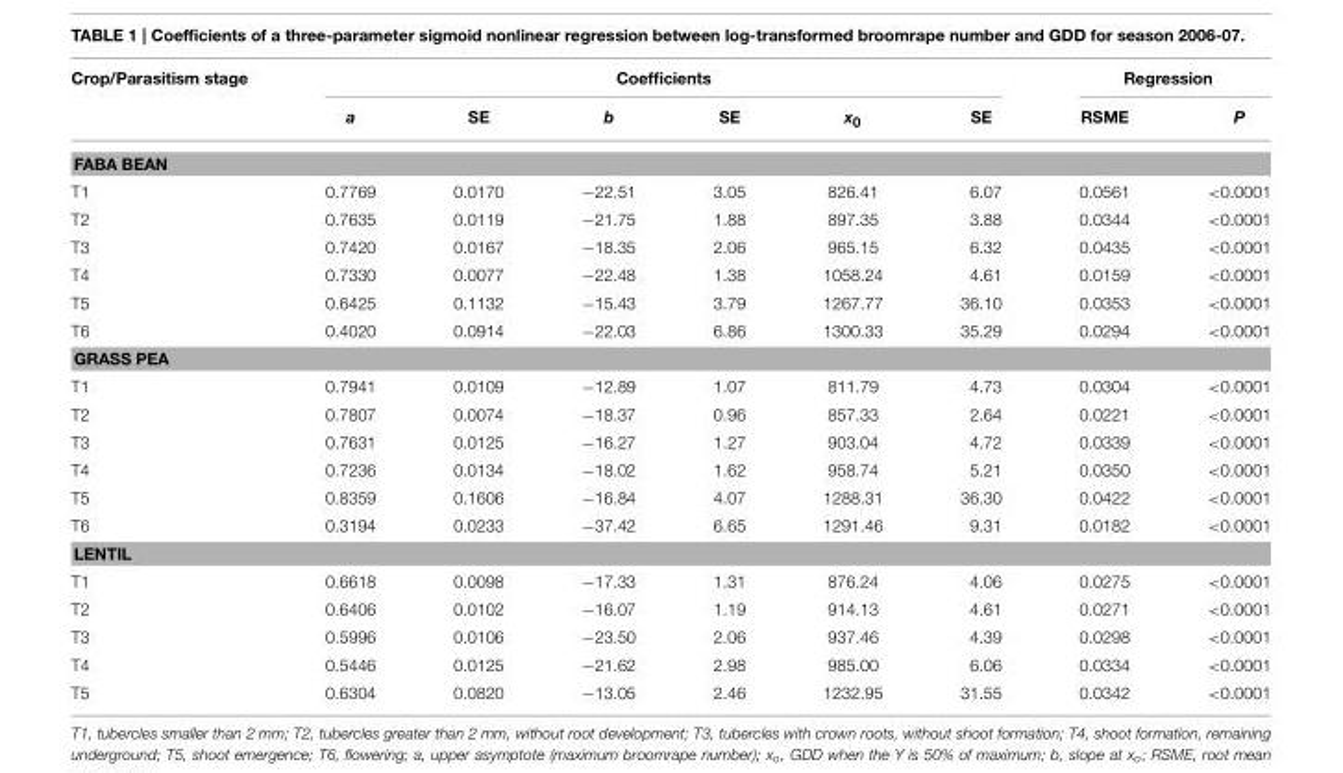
<table><thead><tr><td rowspan="2">Crop/Parasitism stage</td><td colspan="6">Coefficients</td><td colspan="2">Regression</td></tr><tr><td>a</td><td>SE</td><td>b</td><td>SE</td><td>x<sub>0</sub></td><td>SE</td><td>RSME</td><td>P</td></tr></thead><tbody><tr><td colspan="9">FABA BEAN</td></tr><tr><td>T1</td><td>0.7769</td><td>0.0170</td><td>−22.51</td><td>3.05</td><td>826.41</td><td>6.07</td><td>0.0561</td><td>&lt;0.0001</td></tr><tr><td>T2</td><td>0.7635</td><td>0.0119</td><td>−21.75</td><td>1.88</td><td>897.35</td><td>3.88</td><td>0.0344</td><td>&lt;0.0001</td></tr><tr><td>T3</td><td>0.7420</td><td>0.0167</td><td>−18.35</td><td>2.06</td><td>965.15</td><td>6.32</td><td>0.0435</td><td>&lt;0.0001</td></tr><tr><td>T4</td><td>0.7330</td><td>0.0077</td><td>−22.48</td><td>1.38</td><td>1058.24</td><td>4.61</td><td>0.0159</td><td>&lt;0.0001</td></tr><tr><td>T5</td><td>0.6425</td><td>0.1132</td><td>−15.43</td><td>3.79</td><td>1267.77</td><td>36.10</td><td>0.0353</td><td>&lt;0.0001</td></tr><tr><td>T6</td><td>0.4020</td><td>0.0914</td><td>−22.03</td><td>6.86</td><td>1300.33</td><td>35.29</td><td>0.0294</td><td>&lt;0.0001</td></tr><tr><td colspan="9">GRASS PEA</td></tr><tr><td>T1</td><td>0.7941</td><td>0.0109</td><td>−12.89</td><td>1.07</td><td>811.79</td><td>4.73</td><td>0.0304</td><td>&lt;0.0001</td></tr><tr><td>T2</td><td>0.7807</td><td>0.0074</td><td>−18.37</td><td>0.96</td><td>857.33</td><td>2.64</td><td>0.0221</td><td>&lt;0.0001</td></tr><tr><td>T3</td><td>0.7631</td><td>0.0125</td><td>−16.27</td><td>1.27</td><td>903.04</td><td>4.72</td><td>0.0339</td><td>&lt;0.0001</td></tr><tr><td>T4</td><td>0.7236</td><td>0.0134</td><td>−18.02</td><td>1.62</td><td>958.74</td><td>5.21</td><td>0.0350</td><td>&lt;0.0001</td></tr><tr><td>T5</td><td>0.8359</td><td>0.1606</td><td>−16.84</td><td>4.07</td><td>1288.31</td><td>36.30</td><td>0.0422</td><td>&lt;0.0001</td></tr><tr><td>T6</td><td>0.3194</td><td>0.0233</td><td>−37.42</td><td>6.65</td><td>1291.46</td><td>9.31</td><td>0.0182</td><td>&lt;0.0001</td></tr><tr><td colspan="9">LENTIL</td></tr><tr><td>T1</td><td>0.6618</td><td>0.0098</td><td>−17.33</td><td>1.31</td><td>876.24</td><td>4.06</td><td>0.0275</td><td>&lt;0.0001</td></tr><tr><td>T2</td><td>0.6406</td><td>0.0102</td><td>−16.07</td><td>1.19</td><td>914.13</td><td>4.61</td><td>0.0271</td><td>&lt;0.0001</td></tr><tr><td>T3</td><td>0.5996</td><td>0.0106</td><td>−23.50</td><td>2.06</td><td>937.46</td><td>4.39</td><td>0.0298</td><td>&lt;0.0001</td></tr><tr><td>T4</td><td>0.5446</td><td>0.0125</td><td>−21.62</td><td>2.98</td><td>985.00</td><td>6.06</td><td>0.0334</td><td>&lt;0.0001</td></tr><tr><td>T5</td><td>0.6304</td><td>0.0820</td><td>−13.05</td><td>2.46</td><td>1232.95</td><td>31.55</td><td>0.0342</td><td>&lt;0.0001</td></tr></tbody></table>